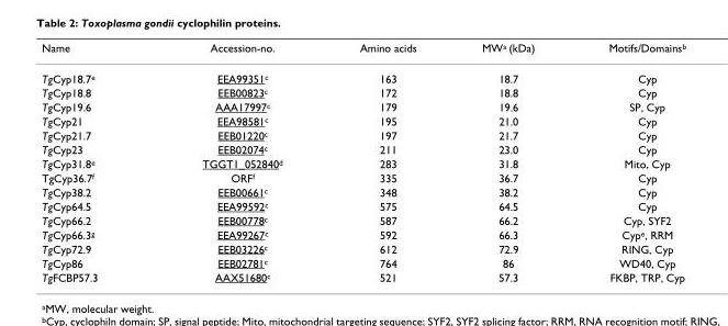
<table><thead><tr><td>Name</td><td>Accession-no.</td><td>Amino acids</td><td>MW<sup>a</sup> (kDa)</td><td>Motifs/Domains<sup>b</sup></td></tr></thead><tbody><tr><td>TgCyp18.7<sup>e</sup></td><td>EEA99351<sup>c</sup></td><td>163</td><td>18.7</td><td>Cyp</td></tr><tr><td>TgCyp18.8</td><td>EEB00823<sup>c</sup></td><td>172</td><td>18.8</td><td>Cyp</td></tr><tr><td>TgCyp19.6</td><td>AAA17997<sup>c</sup></td><td>179</td><td>19.6</td><td>SP, Cyp</td></tr><tr><td>TgCyp21</td><td>EEA98581<sup>c</sup></td><td>195</td><td>21.0</td><td>Cyp</td></tr><tr><td>TgCyp21.7</td><td>EEB01220<sup>c</sup></td><td>197</td><td>21.7</td><td>Cyp</td></tr><tr><td>TgCyp23</td><td>EEB02074<sup>c</sup></td><td>211</td><td>23.0</td><td>Cyp</td></tr><tr><td>TgCyp31.8<sup>e</sup></td><td>TGGT1_052840<sup>d</sup></td><td>283</td><td>31.8</td><td>Mito, Cyp</td></tr><tr><td>TgCyp36.7<sup>f</sup></td><td>ORF<sup>f</sup></td><td>335</td><td>36.7</td><td>Cyp</td></tr><tr><td>TgCyp38.2</td><td>EEB00661<sup>c</sup></td><td>348</td><td>38.2</td><td>Cyp</td></tr><tr><td>TgCyp64.5</td><td>EEA99592<sup>c</sup></td><td>575</td><td>64.5</td><td>Cyp</td></tr><tr><td>TgCyp66.2</td><td>EEB00778<sup>c</sup></td><td>587</td><td>66.2</td><td>Cyp, SYF2</td></tr><tr><td>TgCyp66.3<sup>g</sup></td><td>EEA99267<sup>c</sup></td><td>592</td><td>66.3</td><td>Cyp<sup>e</sup>, RRM</td></tr><tr><td>TgCyp72.9</td><td>EEB03226<sup>c</sup></td><td>612</td><td>72.9</td><td>RING, Cyp</td></tr><tr><td>TgCyp86</td><td>EEB02781<sup>c</sup></td><td>764</td><td>86</td><td>WD40, Cyp</td></tr><tr><td>TgFCBP57.3</td><td>AAX51680<sup>c</sup></td><td>521</td><td>57.3</td><td>FKBP, TRP, Cyp</td></tr></tbody></table>